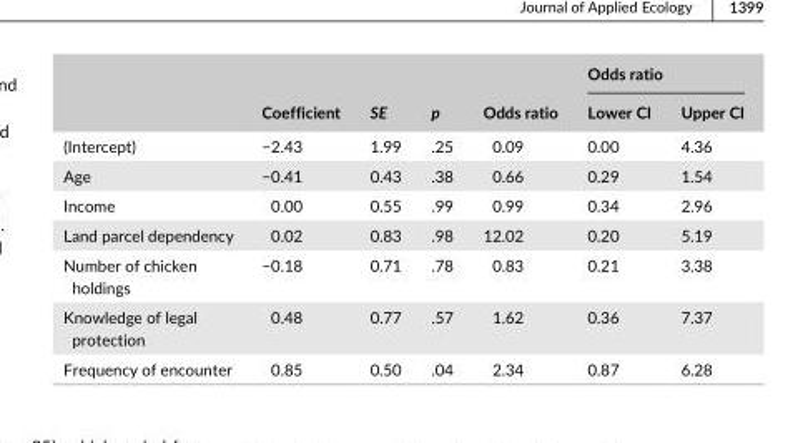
<table><thead><tr><td rowspan="2"></td><td rowspan="2">Coefficient</td><td rowspan="2">SE</td><td rowspan="2">p</td><td rowspan="2">Odds ratio</td><td colspan="2">Odds ratio</td></tr><tr><td>Lower CI</td><td>Upper CI</td></tr></thead><tbody><tr><td>(Intercept)</td><td>−2.43</td><td>1.99</td><td>.25</td><td>0.09</td><td>0.00</td><td>4.36</td></tr><tr><td>Age</td><td>−0.41</td><td>0.43</td><td>.38</td><td>0.66</td><td>0.29</td><td>1.54</td></tr><tr><td>Income</td><td>0.00</td><td>0.55</td><td>.99</td><td>0.99</td><td>0.34</td><td>2.96</td></tr><tr><td>Land parcel dependency</td><td>0.02</td><td>0.83</td><td>.98</td><td>12.02</td><td>0.20</td><td>5.19</td></tr><tr><td>Number of chicken holdings</td><td>−0.18</td><td>0.71</td><td>.78</td><td>0.83</td><td>0.21</td><td>3.38</td></tr><tr><td>Knowledge of legal protection</td><td>0.48</td><td>0.77</td><td>.57</td><td>1.62</td><td>0.36</td><td>7.37</td></tr><tr><td>Frequency of encounter</td><td>0.85</td><td>0.50</td><td>.04</td><td>2.34</td><td>0.87</td><td>6.28</td></tr></tbody></table>